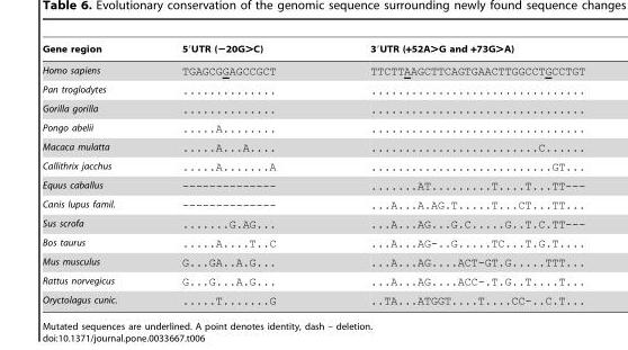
<table><thead><tr><td>Gene region</td><td>5′UTR (−20G&gt;C)</td><td>3′UTR (+52A&gt;G and +73G&gt;A)</td></tr></thead><tbody><tr><td>Homo sapiens</td><td>TGAGCGGAGCCGCT</td><td>TTCTTAAGCTTCAGTGAACTTGGCCTGCCTGT</td></tr><tr><td>Pan troglodytes</td><td>..............</td><td>................................</td></tr><tr><td>Gorilla gorilla</td><td>..............</td><td>................................</td></tr><tr><td>Pongo abelii</td><td>.....A........</td><td>................................</td></tr><tr><td>Macaca mulatta</td><td>.....A...A....</td><td>.........................C......</td></tr><tr><td>Callithrix jacchus</td><td>.....A.......A</td><td>...........................GT...</td></tr><tr><td>Equus caballus</td><td>--------------</td><td>.......AT.........T....T...TT---</td></tr><tr><td>Canis lupus famil.</td><td>--------------</td><td>...A...A.AG.T.....T...CT...TT...</td></tr><tr><td>Sus scrofa</td><td>.......G.AG...</td><td>...A...AG...G.C.....G..T.C.TT---</td></tr><tr><td>Bos taurus</td><td>.....A....T..C</td><td>...A...AG-..G.....TC...T.G.T....</td></tr><tr><td>Mus musculus</td><td>G...GA..A.G...</td><td>...A...AG....ACT-GT.G.....TTT...</td></tr><tr><td>Rattus norvegicus</td><td>G...G...A.G...</td><td>...A...AG....ACC-.T.G..T....T...</td></tr><tr><td>Oryctolagus cunic.</td><td>.....T.......G</td><td>..TA...ATGGT....T....CC-..C.T...</td></tr></tbody></table>